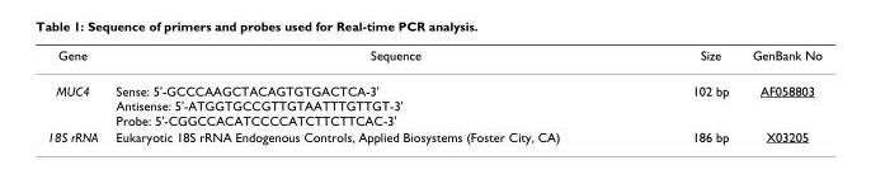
<table><thead><tr><td>Gene</td><td>Sequence</td><td>Size</td><td>GenBank No</td></tr></thead><tbody><tr><td>MUC4</td><td>Sense: 5&#x27;-GCCCAAGCTACAGTGTGACTCA-3&#x27; Antisense: 5&#x27;-ATGGTGCCGTTGTAATTTGTTGT-3&#x27; Probe: 5&#x27;-CGGCCACATCCCCATCTTCTTCAC-3&#x27;</td><td>102 bp</td><td>AF058803</td></tr><tr><td>18S rRNA</td><td>Eukaryotic 18S rRNA Endogenous Controls, Applied Biosystems (Foster City, CA)</td><td>186 bp</td><td>X03205</td></tr></tbody></table>